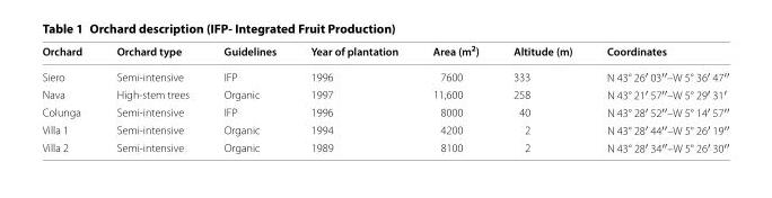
<table><thead><tr><td>Orchard</td><td>Orchard type</td><td>Guidelines</td><td>Year of plantation</td><td>Area (m<sup>2</sup>)</td><td>Altitude (m)</td><td>Coordinates</td></tr></thead><tbody><tr><td>Siero</td><td>Semi-intensive</td><td>IFP</td><td>1996</td><td>7600</td><td>333</td><td>N 43° 26′ 03′′–W 5° 36′ 47′′</td></tr><tr><td>Nava</td><td>High-stem trees</td><td>Organic</td><td>1997</td><td>11,600</td><td>258</td><td>N 43° 21′ 57′′–W 5° 29′ 31′</td></tr><tr><td>Colunga</td><td>Semi-intensive</td><td>IFP</td><td>1996</td><td>8000</td><td>40</td><td>N 43° 28′ 52′′–W 5° 14′ 57′′</td></tr><tr><td>Villa 1</td><td>Semi-intensive</td><td>Organic</td><td>1994</td><td>4200</td><td>2</td><td>N 43° 28′ 44′′–W 5° 26′ 19′′</td></tr><tr><td>Villa 2</td><td>Semi-intensive</td><td>Organic</td><td>1989</td><td>8100</td><td>2</td><td>N 43° 28′ 34′′–W 5° 26′ 30′′</td></tr></tbody></table>